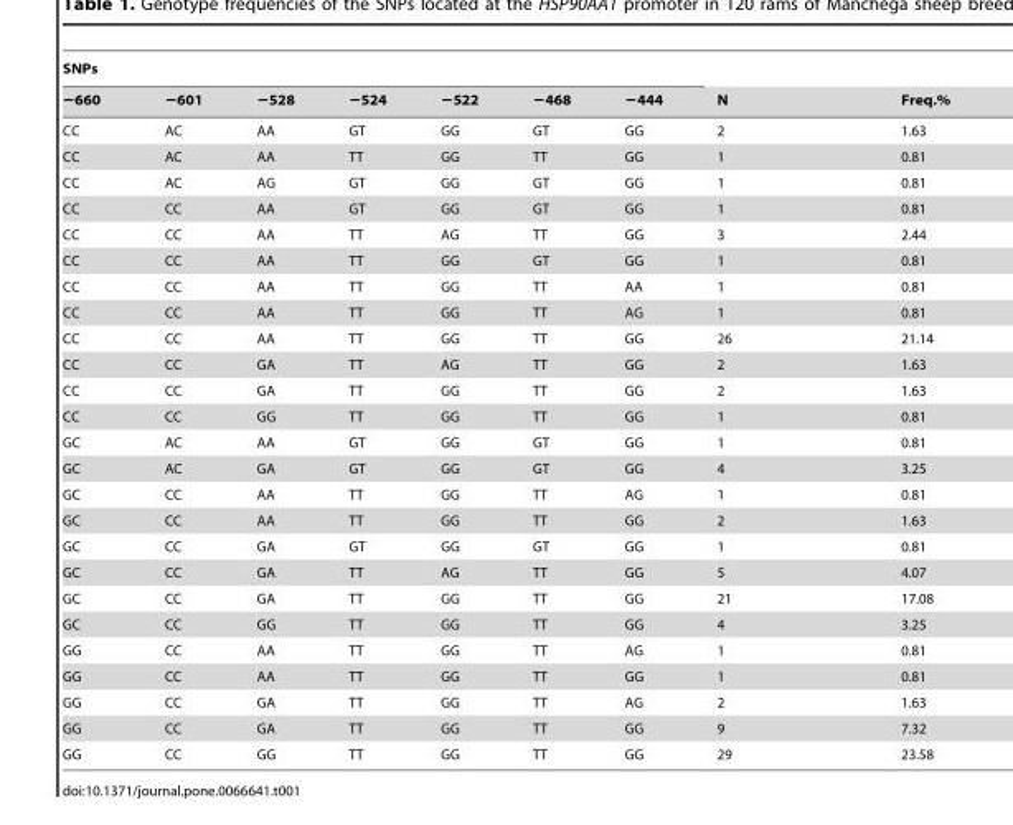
<table><thead><tr><td colspan="7">SNPs</td><td rowspan="2">N</td><td rowspan="2">Freq.%</td></tr><tr><td>−660</td><td>−601</td><td>−528</td><td>−524</td><td>−522</td><td>−468</td><td>−444</td></tr></thead><tbody><tr><td>CC</td><td>AC</td><td>AA</td><td>GT</td><td>GG</td><td>GT</td><td>GG</td><td>2</td><td>1.63</td></tr><tr><td>CC</td><td>AC</td><td>AA</td><td>TT</td><td>GG</td><td>TT</td><td>GG</td><td>1</td><td>0.81</td></tr><tr><td>CC</td><td>AC</td><td>AG</td><td>GT</td><td>GG</td><td>GT</td><td>GG</td><td>1</td><td>0.81</td></tr><tr><td>CC</td><td>CC</td><td>AA</td><td>GT</td><td>GG</td><td>GT</td><td>GG</td><td>1</td><td>0.81</td></tr><tr><td>CC</td><td>CC</td><td>AA</td><td>TT</td><td>AG</td><td>TT</td><td>GG</td><td>3</td><td>2.44</td></tr><tr><td>CC</td><td>CC</td><td>AA</td><td>TT</td><td>GG</td><td>GT</td><td>GG</td><td>1</td><td>0.81</td></tr><tr><td>CC</td><td>CC</td><td>AA</td><td>TT</td><td>GG</td><td>TT</td><td>AA</td><td>1</td><td>0.81</td></tr><tr><td>CC</td><td>CC</td><td>AA</td><td>TT</td><td>GG</td><td>TT</td><td>AG</td><td>1</td><td>0.81</td></tr><tr><td>CC</td><td>CC</td><td>AA</td><td>TT</td><td>GG</td><td>TT</td><td>GG</td><td>26</td><td>21.14</td></tr><tr><td>CC</td><td>CC</td><td>GA</td><td>TT</td><td>AG</td><td>TT</td><td>GG</td><td>2</td><td>1.63</td></tr><tr><td>CC</td><td>CC</td><td>GA</td><td>TT</td><td>GG</td><td>TT</td><td>GG</td><td>2</td><td>1.63</td></tr><tr><td>CC</td><td>CC</td><td>GG</td><td>TT</td><td>GG</td><td>TT</td><td>GG</td><td>1</td><td>0.81</td></tr><tr><td>GC</td><td>AC</td><td>AA</td><td>GT</td><td>GG</td><td>GT</td><td>GG</td><td>1</td><td>0.81</td></tr><tr><td>GC</td><td>AC</td><td>GA</td><td>GT</td><td>GG</td><td>GT</td><td>GG</td><td>4</td><td>3.25</td></tr><tr><td>GC</td><td>CC</td><td>AA</td><td>TT</td><td>GG</td><td>TT</td><td>AG</td><td>1</td><td>0.81</td></tr><tr><td>GC</td><td>CC</td><td>AA</td><td>TT</td><td>GG</td><td>TT</td><td>GG</td><td>2</td><td>1.63</td></tr><tr><td>GC</td><td>CC</td><td>GA</td><td>GT</td><td>GG</td><td>GT</td><td>GG</td><td>1</td><td>0.81</td></tr><tr><td>GC</td><td>CC</td><td>GA</td><td>TT</td><td>AG</td><td>TT</td><td>GG</td><td>5</td><td>4.07</td></tr><tr><td>GC</td><td>CC</td><td>GA</td><td>TT</td><td>GG</td><td>TT</td><td>GG</td><td>21</td><td>17.08</td></tr><tr><td>GC</td><td>CC</td><td>GG</td><td>TT</td><td>GG</td><td>TT</td><td>GG</td><td>4</td><td>3.25</td></tr><tr><td>GG</td><td>CC</td><td>AA</td><td>TT</td><td>GG</td><td>TT</td><td>AG</td><td>1</td><td>0.81</td></tr><tr><td>GG</td><td>CC</td><td>AA</td><td>TT</td><td>GG</td><td>TT</td><td>GG</td><td>1</td><td>0.81</td></tr><tr><td>GG</td><td>CC</td><td>GA</td><td>TT</td><td>GG</td><td>TT</td><td>AG</td><td>2</td><td>1.63</td></tr><tr><td>GG</td><td>CC</td><td>GA</td><td>TT</td><td>GG</td><td>TT</td><td>GG</td><td>9</td><td>7.32</td></tr><tr><td>GG</td><td>CC</td><td>GG</td><td>TT</td><td>GG</td><td>TT</td><td>GG</td><td>29</td><td>23.58</td></tr></tbody></table>